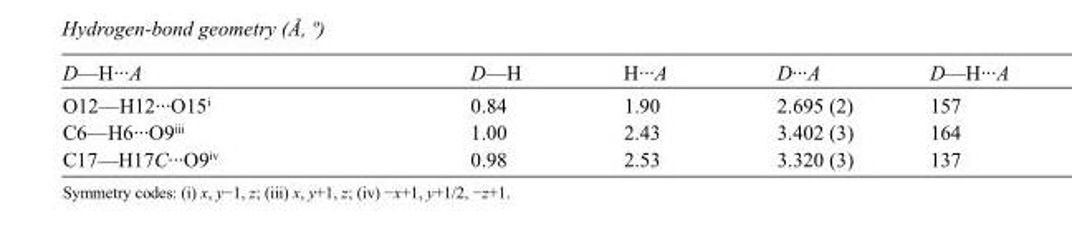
<table><tbody><tr><td>D—H···A</td><td>D—H</td><td>H···A</td><td>D···A</td><td>D—H···A</td></tr><tr><td>O12—H12···O15<sup>i</sup></td><td>0.84</td><td>1.90</td><td>2.695 (2)</td><td>157</td></tr><tr><td>C6—H6···O9<sup>iii</sup></td><td>1.00</td><td>2.43</td><td>3.402 (3)</td><td>164</td></tr><tr><td>C17—H17C···O9<sup>iv</sup></td><td>0.98</td><td>2.53</td><td>3.320 (3)</td><td>137</td></tr></tbody></table>